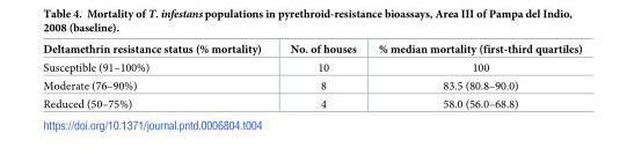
<table><thead><tr><td>Deltamethrin resistance status (% mortality)</td><td>No. of houses</td><td>% median mortality (first-third quartiles)</td></tr></thead><tbody><tr><td>Susceptible (91–100%)</td><td>10</td><td>100</td></tr><tr><td>Moderate (76–90%)</td><td>8</td><td>83.5 (80.8–90.0)</td></tr><tr><td>Reduced (50–75%)</td><td>4</td><td>58.0 (56.0–68.8)</td></tr></tbody></table>